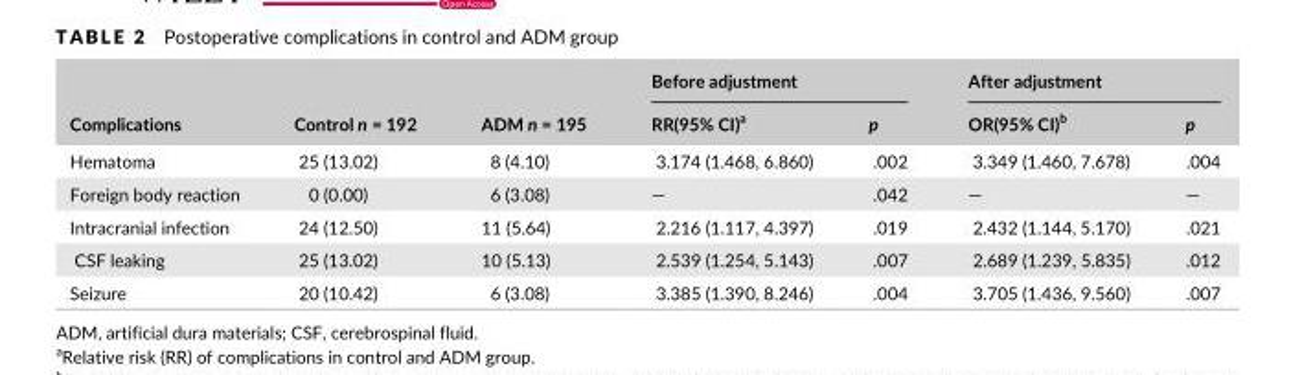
<table><thead><tr><td rowspan="2">Complications</td><td rowspan="2">Control n = 192</td><td rowspan="2">ADM n = 195</td><td colspan="2">Before adjustment</td><td colspan="2">After adjustment</td></tr><tr><td>RR(95% CI)<sup>a</sup></td><td>p</td><td>OR(95% CI)<sup>b</sup></td><td>p</td></tr></thead><tbody><tr><td>Hematoma</td><td>25 (13.02)</td><td>8 (4.10)</td><td>3.174 (1.468, 6.860)</td><td>.002</td><td>3.349 (1.460, 7.678)</td><td>.004</td></tr><tr><td>Foreign body reaction</td><td>0 (0.00)</td><td>6 (3.08)</td><td>—</td><td>.042</td><td>—</td><td>—</td></tr><tr><td>Intracranial infection</td><td>24 (12.50)</td><td>11 (5.64)</td><td>2.216 (1.117, 4.397)</td><td>.019</td><td>2.432 (1.144, 5.170)</td><td>.021</td></tr><tr><td>CSF leaking</td><td>25 (13.02)</td><td>10 (5.13)</td><td>2.539 (1.254, 5.143)</td><td>.007</td><td>2.689 (1.239, 5.835)</td><td>.012</td></tr><tr><td>Seizure</td><td>20 (10.42)</td><td>6 (3.08)</td><td>3.385 (1.390, 8.246)</td><td>.004</td><td>3.705 (1.436, 9.560)</td><td>.007</td></tr></tbody></table>